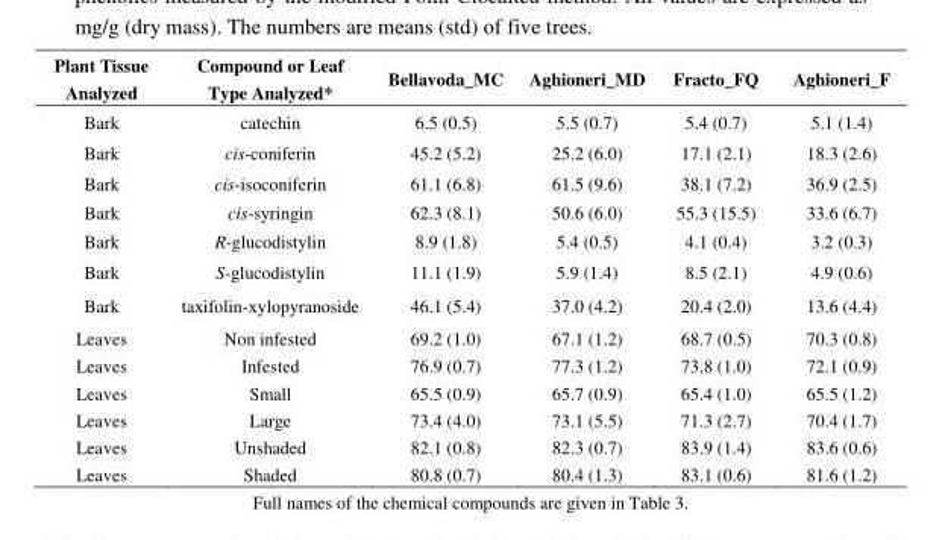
<table><thead><tr><td>Plant Tissue Analyzed</td><td>Compound or Leaf Type Analyzed*</td><td>Bellavoda_MC</td><td>Aghioneri_MD</td><td>Fracto_FQ</td><td>Aghioneri_F</td></tr></thead><tbody><tr><td>Bark</td><td>catechin</td><td>6.5 (0.5)</td><td>5.5 (0.7)</td><td>5.4 (0.7)</td><td>5.1 (1.4)</td></tr><tr><td>Bark</td><td>cis-coniferin</td><td>45.2 (5.2)</td><td>25.2 (6.0)</td><td>17.1 (2.1)</td><td>18.3 (2.6)</td></tr><tr><td>Bark</td><td>cis-isoconiferin</td><td>61.1 (6.8)</td><td>61.5 (9.6)</td><td>38.1 (7.2)</td><td>36.9 (2.5)</td></tr><tr><td>Bark</td><td>cis-syringin</td><td>62.3 (8.1)</td><td>50.6 (6.0)</td><td>55.3 (15.5)</td><td>33.6 (6.7)</td></tr><tr><td>Bark</td><td>R-glucodistylin</td><td>8.9 (1.8)</td><td>5.4 (0.5)</td><td>4.1 (0.4)</td><td>3.2 (0.3)</td></tr><tr><td>Bark</td><td>S-glucodistylin</td><td>11.1 (1.9)</td><td>5.9 (1.4)</td><td>8.5 (2.1)</td><td>4.9 (0.6)</td></tr><tr><td>Bark</td><td>taxifolin-xylopyranoside</td><td>46.1 (5.4)</td><td>37.0 (4.2)</td><td>20.4 (2.0)</td><td>13.6 (4.4)</td></tr><tr><td>Leaves</td><td>Non infested</td><td>69.2 (1.0)</td><td>67.1 (1.2)</td><td>68.7 (0.5)</td><td>70.3 (0.8)</td></tr><tr><td>Leaves</td><td>Infested</td><td>76.9 (0.7)</td><td>77.3 (1.2)</td><td>73.8 (1.0)</td><td>72.1 (0.9)</td></tr><tr><td>Leaves</td><td>Small</td><td>65.5 (0.9)</td><td>65.7 (0.9)</td><td>65.4 (1.0)</td><td>65.5 (1.2)</td></tr><tr><td>Leaves</td><td>Large</td><td>73.4 (4.0)</td><td>73.1 (5.5)</td><td>71.3 (2.7)</td><td>70.4 (1.7)</td></tr><tr><td>Leaves</td><td>Unshaded</td><td>82.1 (0.8)</td><td>82.3 (0.7)</td><td>83.9 (1.4)</td><td>83.6 (0.6)</td></tr><tr><td>Leaves</td><td>Shaded</td><td>80.8 (0.7)</td><td>80.4 (1.3)</td><td>83.1 (0.6)</td><td>81.6 (1.2)</td></tr></tbody></table>